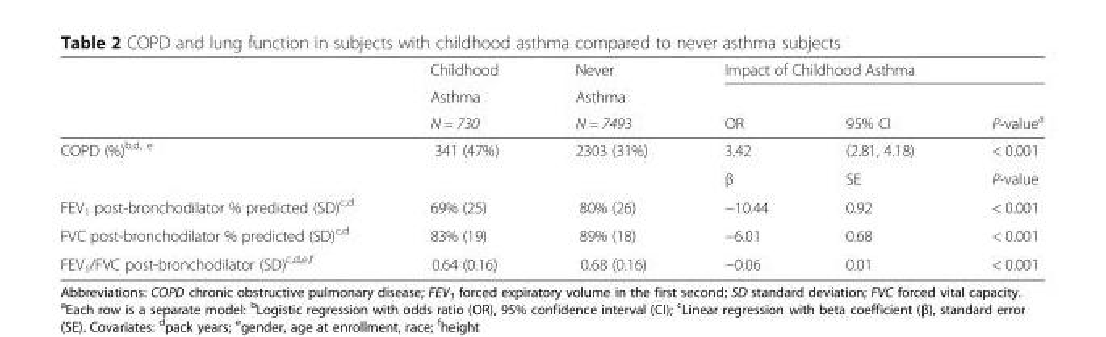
<table><thead><tr><td rowspan="3"></td><td rowspan="3">Childhood Asthma N = 730</td><td rowspan="3">Never Asthma N = 7493</td><td colspan="3">Impact of Childhood Asthma</td></tr><tr><td rowspan="2">OR</td><td rowspan="2">95% CI</td><td rowspan="2">P-value<sup>a</sup></td></tr><tr></tr></thead><tbody><tr><td rowspan="2">COPD (%)<sup>b,d, e</sup></td><td>341 (47%)</td><td>2303 (31%)</td><td>3.42</td><td>(2.81, 4.18)</td><td>&lt; 0.001</td></tr><tr><td></td><td></td><td>β</td><td>SE</td><td>P-value</td></tr><tr><td>FEV<sub>1</sub> post-bronchodilator % predicted (SD)<sup>c,d</sup></td><td>69% (25)</td><td>80% (26)</td><td>−10.44</td><td>0.92</td><td>&lt; 0.001</td></tr><tr><td>FVC post-bronchodilator % predicted (SD)<sup>c,d</sup></td><td>83% (19)</td><td>89% (18)</td><td>−6.01</td><td>0.68</td><td>&lt; 0.001</td></tr><tr><td>FEV<sub>1</sub>/FVC post-bronchodilator (SD)<sup>c,d,e,f</sup></td><td>0.64 (0.16)</td><td>0.68 (0.16)</td><td>−0.06</td><td>0.01</td><td>&lt; 0.001</td></tr></tbody></table>